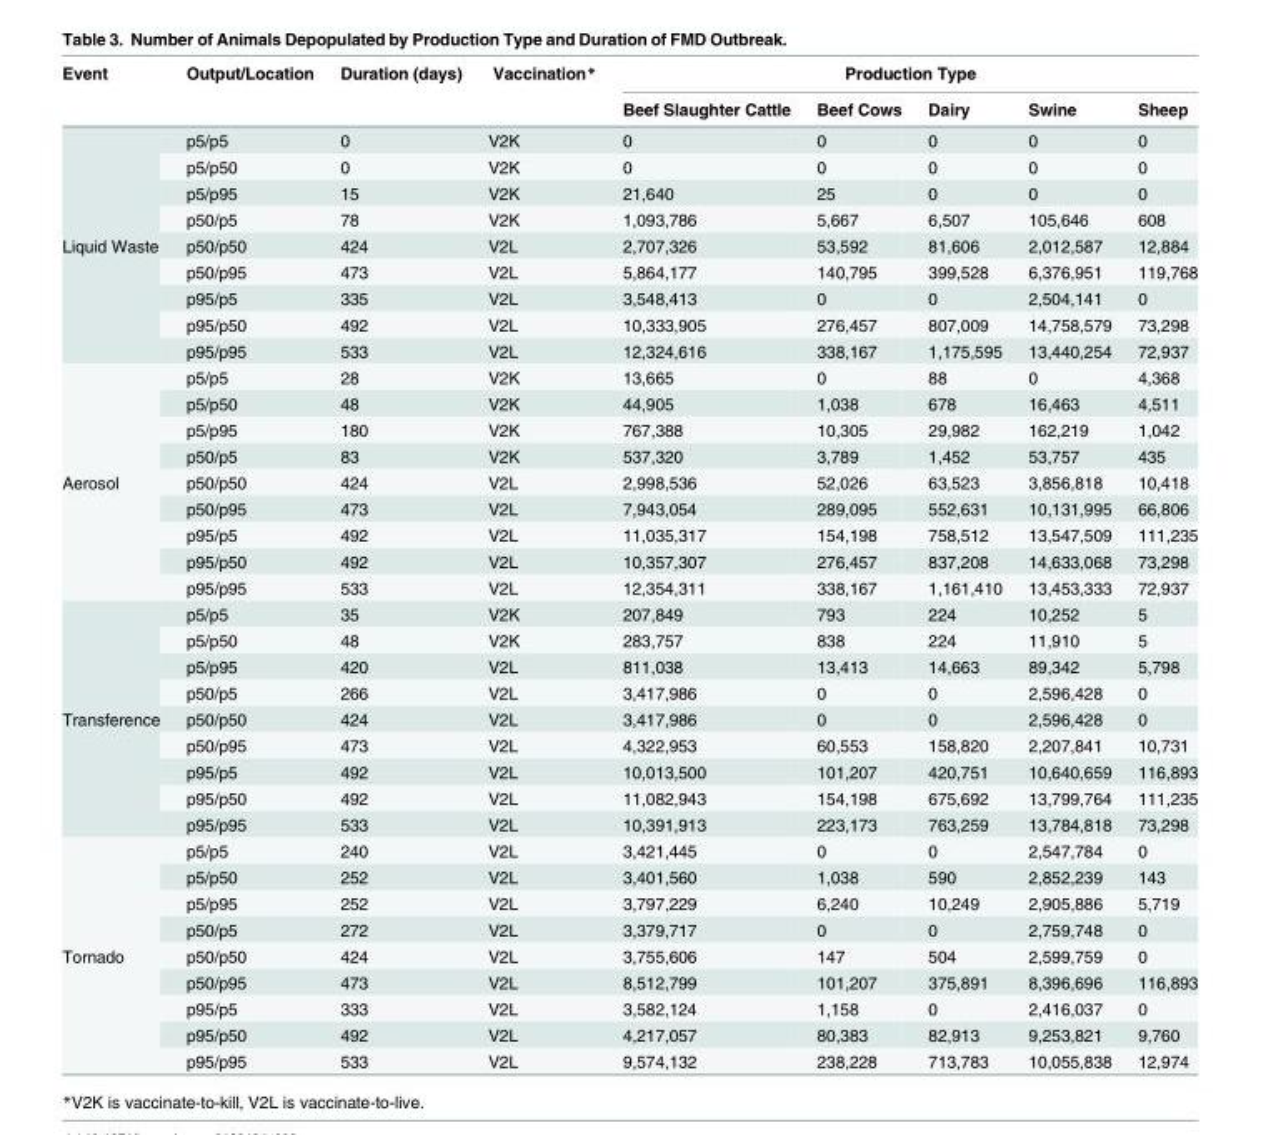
<table><thead><tr><td rowspan="2">Event</td><td rowspan="2">Output/Location</td><td rowspan="2">Duration (days)</td><td rowspan="2">Vaccination*</td><td colspan="5">Production Type</td></tr><tr><td>Beef Slaughter Cattle</td><td>Beef Cows</td><td>Dairy</td><td>Swine</td><td>Sheep</td></tr></thead><tbody><tr><td rowspan="9">Liquid Waste</td><td>p5/p5</td><td>0</td><td>V2K</td><td>0</td><td>0</td><td>0</td><td>0</td><td>0</td></tr><tr><td>p5/p50</td><td>0</td><td>V2K</td><td>0</td><td>0</td><td>0</td><td>0</td><td>0</td></tr><tr><td>p5/p95</td><td>15</td><td>V2K</td><td>21,640</td><td>25</td><td>0</td><td>0</td><td>0</td></tr><tr><td>p50/p5</td><td>78</td><td>V2K</td><td>1,093,786</td><td>5,667</td><td>6,507</td><td>105,646</td><td>608</td></tr><tr><td>p50/p50</td><td>424</td><td>V2L</td><td>2,707,326</td><td>53,592</td><td>81,606</td><td>2,012,587</td><td>12,884</td></tr><tr><td>p50/p95</td><td>473</td><td>V2L</td><td>5,864,177</td><td>140,795</td><td>399,528</td><td>6,376,951</td><td>119,768</td></tr><tr><td>p95/p5</td><td>335</td><td>V2L</td><td>3,548,413</td><td>0</td><td>0</td><td>2,504,141</td><td>0</td></tr><tr><td>p95/p50</td><td>492</td><td>V2L</td><td>10,333,905</td><td>276,457</td><td>807,009</td><td>14,758,579</td><td>73,298</td></tr><tr><td>p95/p95</td><td>533</td><td>V2L</td><td>12,324,616</td><td>338,167</td><td>1,175,595</td><td>13,440,254</td><td>72,937</td></tr><tr><td rowspan="9">Aerosol</td><td>p5/p5</td><td>28</td><td>V2K</td><td>13,665</td><td>0</td><td>88</td><td>0</td><td>4,368</td></tr><tr><td>p5/p50</td><td>48</td><td>V2K</td><td>44,905</td><td>1,038</td><td>678</td><td>16,463</td><td>4,511</td></tr><tr><td>p5/p95</td><td>180</td><td>V2K</td><td>767,388</td><td>10,305</td><td>29,982</td><td>162,219</td><td>1,042</td></tr><tr><td>p50/p5</td><td>83</td><td>V2K</td><td>537,320</td><td>3,789</td><td>1,452</td><td>53,757</td><td>435</td></tr><tr><td>p50/p50</td><td>424</td><td>V2L</td><td>2,998,536</td><td>52,026</td><td>63,523</td><td>3,856,818</td><td>10,418</td></tr><tr><td>p50/p95</td><td>473</td><td>V2L</td><td>7,943,054</td><td>289,095</td><td>552,631</td><td>10,131,995</td><td>66,806</td></tr><tr><td>p95/p5</td><td>492</td><td>V2L</td><td>11,035,317</td><td>154,198</td><td>758,512</td><td>13,547,509</td><td>111,235</td></tr><tr><td>p95/p50</td><td>492</td><td>V2L</td><td>10,357,307</td><td>276,457</td><td>837,208</td><td>14,633,068</td><td>73,298</td></tr><tr><td>p95/p95</td><td>533</td><td>V2L</td><td>12,354,311</td><td>338,167</td><td>1,161,410</td><td>13,453,333</td><td>72,937</td></tr><tr><td rowspan="9">Transference</td><td>p5/p5</td><td>35</td><td>V2K</td><td>207,849</td><td>793</td><td>224</td><td>10,252</td><td>5</td></tr><tr><td>p5/p50</td><td>48</td><td>V2K</td><td>283,757</td><td>838</td><td>224</td><td>11,910</td><td>5</td></tr><tr><td>p5/p95</td><td>420</td><td>V2L</td><td>811,038</td><td>13,413</td><td>14,663</td><td>89,342</td><td>5,798</td></tr><tr><td>p50/p5</td><td>266</td><td>V2L</td><td>3,417,986</td><td>0</td><td>0</td><td>2,596,428</td><td>0</td></tr><tr><td>p50/p50</td><td>424</td><td>V2L</td><td>3,417,986</td><td>0</td><td>0</td><td>2,596,428</td><td>0</td></tr><tr><td>p50/p95</td><td>473</td><td>V2L</td><td>4,322,953</td><td>60,553</td><td>158,820</td><td>2,207,841</td><td>10,731</td></tr><tr><td>p95/p5</td><td>492</td><td>V2L</td><td>10,013,500</td><td>101,207</td><td>420,751</td><td>10,640,659</td><td>116,893</td></tr><tr><td>p95/p50</td><td>492</td><td>V2L</td><td>11,082,943</td><td>154,198</td><td>675,692</td><td>13,799,764</td><td>111,235</td></tr><tr><td>p95/p95</td><td>533</td><td>V2L</td><td>10,391,913</td><td>223,173</td><td>763,259</td><td>13,784,818</td><td>73,298</td></tr><tr><td rowspan="9">Tornado</td><td>p5/p5</td><td>240</td><td>V2L</td><td>3,421,445</td><td>0</td><td>0</td><td>2,547,784</td><td>0</td></tr><tr><td>p5/p50</td><td>252</td><td>V2L</td><td>3,401,560</td><td>1,038</td><td>590</td><td>2,852,239</td><td>143</td></tr><tr><td>p5/p95</td><td>252</td><td>V2L</td><td>3,797,229</td><td>6,240</td><td>10,249</td><td>2,905,886</td><td>5,719</td></tr><tr><td>p50/p5</td><td>272</td><td>V2L</td><td>3,379,717</td><td>0</td><td>0</td><td>2,759,748</td><td>0</td></tr><tr><td>p50/p50</td><td>424</td><td>V2L</td><td>3,755,606</td><td>147</td><td>504</td><td>2,599,759</td><td>0</td></tr><tr><td>p50/p95</td><td>473</td><td>V2L</td><td>8,512,799</td><td>101,207</td><td>375,891</td><td>8,396,696</td><td>116,893</td></tr><tr><td>p95/p5</td><td>333</td><td>V2L</td><td>3,582,124</td><td>1,158</td><td>0</td><td>2,416,037</td><td>0</td></tr><tr><td>p95/p50</td><td>492</td><td>V2L</td><td>4,217,057</td><td>80,383</td><td>82,913</td><td>9,253,821</td><td>9,760</td></tr><tr><td>p95/p95</td><td>533</td><td>V2L</td><td>9,574,132</td><td>238,228</td><td>713,783</td><td>10,055,838</td><td>12,974</td></tr></tbody></table>